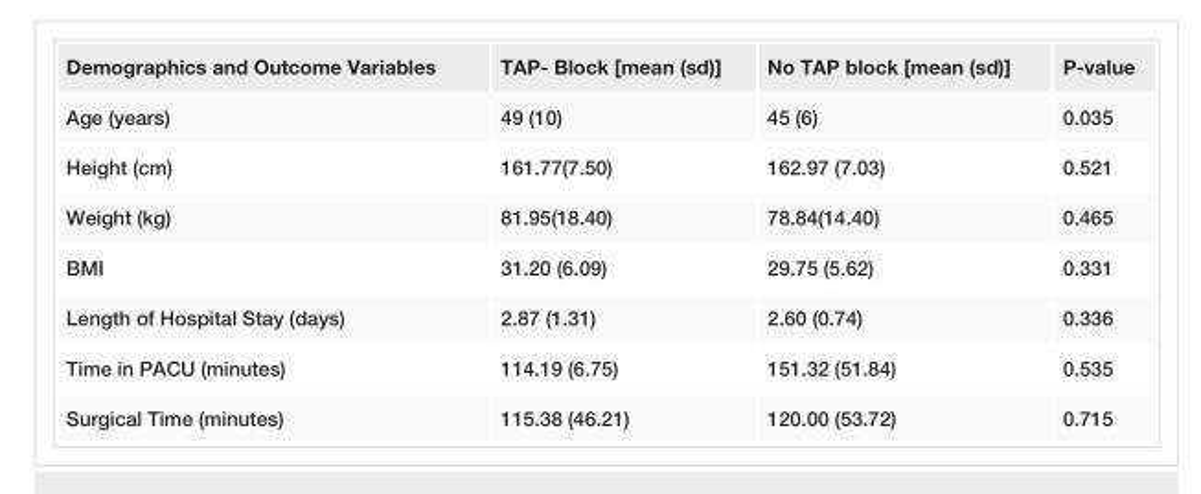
<table><tbody><tr><td>Demographics and Outcome Variables</td><td>TAP- Block [mean (sd)]</td><td>No TAP block [mean (sd)]</td><td>P-value</td></tr><tr><td>Age (years)</td><td>49 (10)</td><td>45 (6)</td><td>0.035</td></tr><tr><td>Height (cm)</td><td>161.77(7.50)</td><td>162.97 (7.03)</td><td>0.521</td></tr><tr><td>Weight (kg)</td><td>81.95(18.40)</td><td>78.84(14.40)</td><td>0.465</td></tr><tr><td>BMI</td><td>31.20 (6.09)</td><td>29.75 (5.62)</td><td>0.331</td></tr><tr><td>Length of Hospital Stay (days)</td><td>2.87 (1.31)</td><td>2.60 (0.74)</td><td>0.336</td></tr><tr><td>Time in PACU (minutes)</td><td>114.19 (6.75)</td><td>151.32 (51.84)</td><td>0.535</td></tr><tr><td>Surgical Time (minutes)</td><td>115.38 (46.21)</td><td>120.00 (53.72)</td><td>0.715</td></tr></tbody></table>